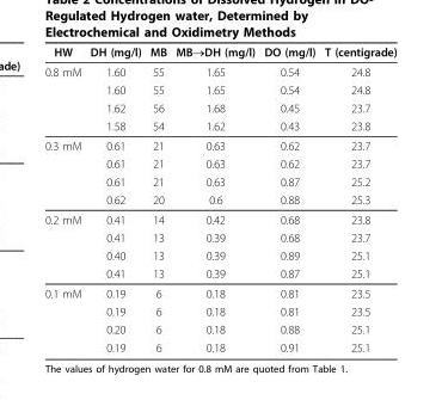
<table><thead><tr><td>HW</td><td>DH (mg/l)</td><td>MB</td><td>MB→DH (mg/l)</td><td>DO (mg/l)</td><td>T (centigrade)</td></tr></thead><tbody><tr><td rowspan="4">0.8 mM</td><td>1.60</td><td>55</td><td>1.65</td><td>0.54</td><td>24.8</td></tr><tr><td>1.60</td><td>55</td><td>1.65</td><td>0.54</td><td>24.8</td></tr><tr><td>1.62</td><td>56</td><td>1.68</td><td>0.45</td><td>23.7</td></tr><tr><td>1.58</td><td>54</td><td>1.62</td><td>0.43</td><td>23.8</td></tr><tr><td rowspan="4">0.3 mM</td><td>0.61</td><td>21</td><td>0.63</td><td>0.62</td><td>23.7</td></tr><tr><td>0.61</td><td>21</td><td>0.63</td><td>0.62</td><td>23.7</td></tr><tr><td>0.61</td><td>21</td><td>0.63</td><td>0.87</td><td>25.2</td></tr><tr><td>0.62</td><td>20</td><td>0.6</td><td>0.88</td><td>25.3</td></tr><tr><td rowspan="4">0.2 mM</td><td>0.41</td><td>14</td><td>0.42</td><td>0.68</td><td>23.8</td></tr><tr><td>0.41</td><td>13</td><td>0.39</td><td>0.68</td><td>23.7</td></tr><tr><td>0.40</td><td>13</td><td>0.39</td><td>0.89</td><td>25.1</td></tr><tr><td>0.41</td><td>13</td><td>0.39</td><td>0.87</td><td>25.1</td></tr><tr><td rowspan="4">0.1 mM</td><td>0.19</td><td>6</td><td>0.18</td><td>0.81</td><td>23.5</td></tr><tr><td>0.19</td><td>6</td><td>0.18</td><td>0.81</td><td>23.5</td></tr><tr><td>0.20</td><td>6</td><td>0.18</td><td>0.88</td><td>25.1</td></tr><tr><td>0.19</td><td>6</td><td>0.18</td><td>0.91</td><td>25.1</td></tr></tbody></table>